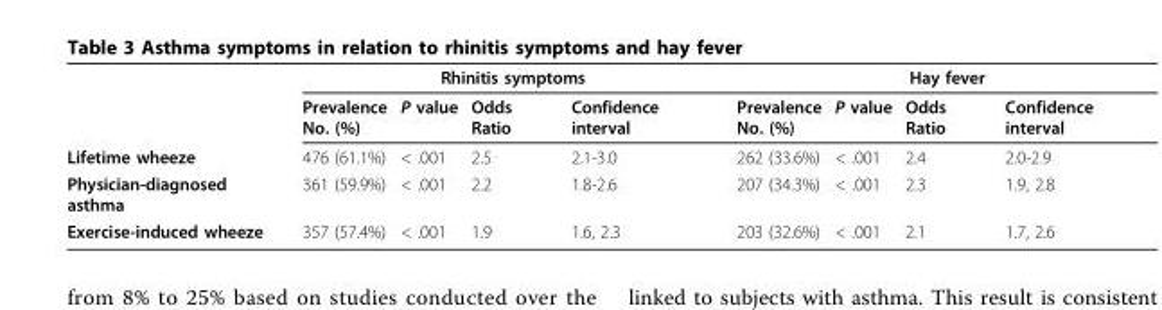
<table><thead><tr><td rowspan="2"></td><td colspan="4">Rhinitis symptoms</td><td colspan="4">Hay fever</td></tr><tr><td>Prevalence No. (%)</td><td>P value</td><td>Odds Ratio</td><td>Confidence interval</td><td>Prevalence No. (%)</td><td>P value</td><td>Odds Ratio</td><td>Confidence interval</td></tr></thead><tbody><tr><td>Lifetime wheeze</td><td>476 (61.1%)</td><td>&lt; .001</td><td>2.5</td><td>2.1-3.0</td><td>262 (33.6%)</td><td>&lt; .001</td><td>2.4</td><td>2.0-2.9</td></tr><tr><td>Physician-diagnosed asthma</td><td>361 (59.9%)</td><td>&lt; .001</td><td>2.2</td><td>1.8-2.6</td><td>207 (34.3%)</td><td>&lt; .001</td><td>2.3</td><td>1.9, 2.8</td></tr><tr><td>Exercise-induced wheeze</td><td>357 (57.4%)</td><td>&lt; .001</td><td>1.9</td><td>1.6, 2.3</td><td>203 (32.6%)</td><td>&lt; .001</td><td>2.1</td><td>1.7, 2.6</td></tr></tbody></table>